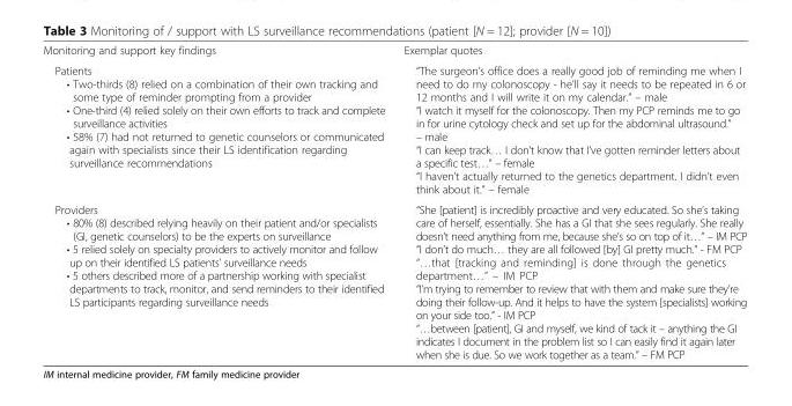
<table><tbody><tr><td>Monitoring and support key findings</td><td>Exemplar quotes</td></tr><tr><td>Patients • Two-thirds (8) relied on a combination of their own tracking and some type of reminder prompting from a provider • One-third (4) relied solely on their own efforts to track and complete surveillance activities • 58% (7) had not returned to genetic counselors or communicated again with specialists since their LS identification regarding surveillance recommendations</td><td>“The surgeon’s office does a really good job of reminding me when I need to do my colonoscopy - he’ll say it needs to be repeated in 6 or 12 months and I will write it on my calendar.” – male “I watch it myself for the colonoscopy. Then my PCP reminds me to go in for urine cytology check and set up for the abdominal ultrasound.” – male “I can keep track… I don’t know that I’ve gotten reminder letters about a specific test…” – female “I haven’t actually returned to the genetics department. I didn’t even think about it.” – female</td></tr><tr><td>Providers • 80% (8) described relying heavily on their patient and/or specialists (GI, genetic counselors) to be the experts on surveillance • 5 relied solely on specialty providers to actively monitor and follow up on their identified LS patients’ surveillance needs • 5 others described more of a partnership working with specialist departments to track, monitor, and send reminders to their identified LS participants regarding surveillance needs</td><td>“She [patient] is incredibly proactive and very educated. So she’s taking care of herself, essentially. She has a GI that she sees regularly. She really doesn’t need anything from me, because she’s so on top of it…” – IM PCP “I don’t do much… they are all followed [by] GI pretty much.” - FM PCP “…that [tracking and reminding] is done through the genetics department…” – IM PCP “I’m trying to remember to review that with them and make sure they’re doing their follow-up. And it helps to have the system [specialists] working on your side too.” - IM PCP “…between [patient], GI and myself, we kind of tack it – anything the GI indicates I document in the problem list so I can easily find it again later when she is due. So we work together as a team.” – FM PCP</td></tr></tbody></table>